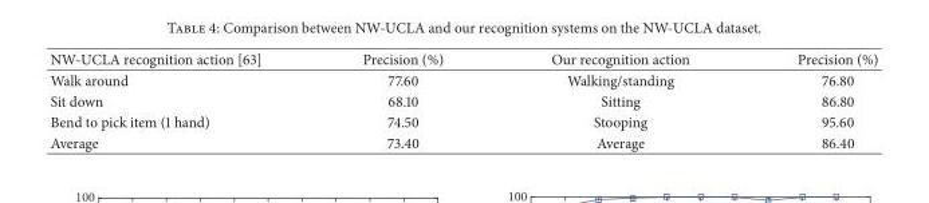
<table><thead><tr><td>NW-UCLA recognition action [63]</td><td>Precision (%)</td><td>Our recognition action</td><td>Precision (%)</td></tr></thead><tbody><tr><td>Walk around</td><td>77.60</td><td>Walking/standing</td><td>76.80</td></tr><tr><td>Sit down</td><td>68.10</td><td>Sitting</td><td>86.80</td></tr><tr><td>Bend to pick item (1 hand)</td><td>74.50</td><td>Stooping</td><td>95.60</td></tr><tr><td>Average</td><td>73.40</td><td>Average</td><td>86.40</td></tr></tbody></table>